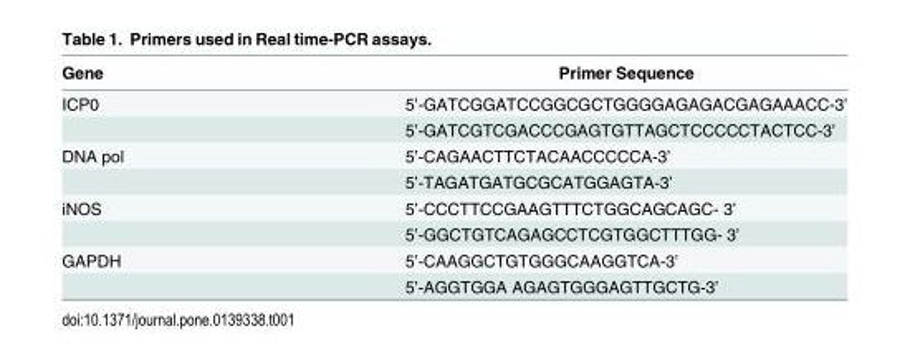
<table><thead><tr><td>Gene</td><td>Primer Sequence</td></tr></thead><tbody><tr><td rowspan="2">ICP0</td><td>5’-GATCGGATCCGGCGCTGGGGAGAGACGAGAAACC-3’</td></tr><tr><td>5’-GATCGTCGACCCGAGTGTTAGCTCCCCCTACTCC-3’</td></tr><tr><td rowspan="2">DNA pol</td><td>5’-CAGAACTTCTACAACCCCCA-3’</td></tr><tr><td>5’-TAGATGATGCGCATGGAGTA-3’</td></tr><tr><td rowspan="2">iNOS</td><td>5’-CCCTTCCGAAGTTTCTGGCAGCAGC- 3’</td></tr><tr><td>5’-GGCTGTCAGAGCCTCGTGGCTTTGG- 3’</td></tr><tr><td rowspan="2">GAPDH</td><td>5’-CAAGGCTGTGGGCAAGGTCA-3’</td></tr><tr><td>5’-AGGTGGA AGAGTGGGAGTTGCTG-3’</td></tr></tbody></table>